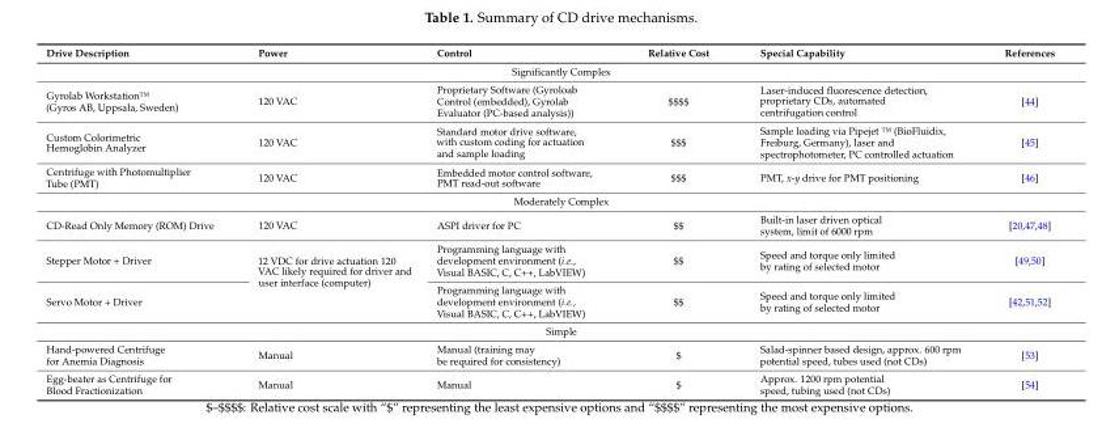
<table><thead><tr><td>Drive Description</td><td>Power</td><td>Control</td><td>Relative Cost</td><td>Special Capability</td><td>References</td></tr></thead><tbody><tr><td colspan="6">Significantly Complex</td></tr><tr><td>Gyrolab Workstation™ (Gyros AB, Uppsala, Sweden)</td><td>120 VAC</td><td>Proprietary Software (Gyroloab Control (embedded), Gyrolab Evaluator (PC-based analysis))</td><td>$$$$</td><td>Laser-induced fluorescence detection, proprietary CDs, automated centrifugation control</td><td>[44]</td></tr><tr><td>Custom Colorimetric Hemoglobin Analyzer</td><td>120 VAC</td><td>Standard motor drive software, with custom coding for actuation and sample loading</td><td>$$$</td><td>Sample loading via Pipejet ™ (BioFluidix, Freiburg, Germany), laser and spectrophotometer, PC controlled actuation</td><td>[45]</td></tr><tr><td>Centrifuge with Photomultiplier Tube (PMT)</td><td>120 VAC</td><td>Embedded motor control software, PMT read-out software</td><td>$$$</td><td>PMT, x-y drive for PMT positioning</td><td>[46]</td></tr><tr><td colspan="6">Moderately Complex</td></tr><tr><td>CD-Read Only Memory (ROM) Drive</td><td>120 VAC</td><td>ASPI driver for PC</td><td>$$</td><td>Built-in laser driven optical system, limit of 6000 rpm</td><td>[20,47,48]</td></tr><tr><td>Stepper Motor + Driver</td><td rowspan="2">12 VDC for drive actuation 120 VAC likely required for driver and user interface (computer)</td><td>Programming language with development environment (i.e., Visual BASIC, C, C++, LabVIEW)</td><td>$$</td><td>Speed and torque only limited by rating of selected motor</td><td>[49,50]</td></tr><tr><td>Servo Motor + Driver</td><td>Programming language with development environment (i.e., Visual BASIC, C, C++, LabVIEW)</td><td>$$</td><td>Speed and torque only limited by rating of selected motor</td><td>[42,51,52]</td></tr><tr><td colspan="6">Simple</td></tr><tr><td>Hand-powered Centrifuge for Anemia Diagnosis</td><td>Manual</td><td>Manual (training may be required for consistency)</td><td>$</td><td>Salad-spinner based design, approx. 600 rpm potential speed, tubes used (not CDs)</td><td>[53]</td></tr><tr><td>Egg-beater as Centrifuge for Blood Fractionization</td><td>Manual</td><td>Manual</td><td>$</td><td>Approx. 1200 rpm potential speed, tubing used (not CDs)</td><td>[54]</td></tr></tbody></table>